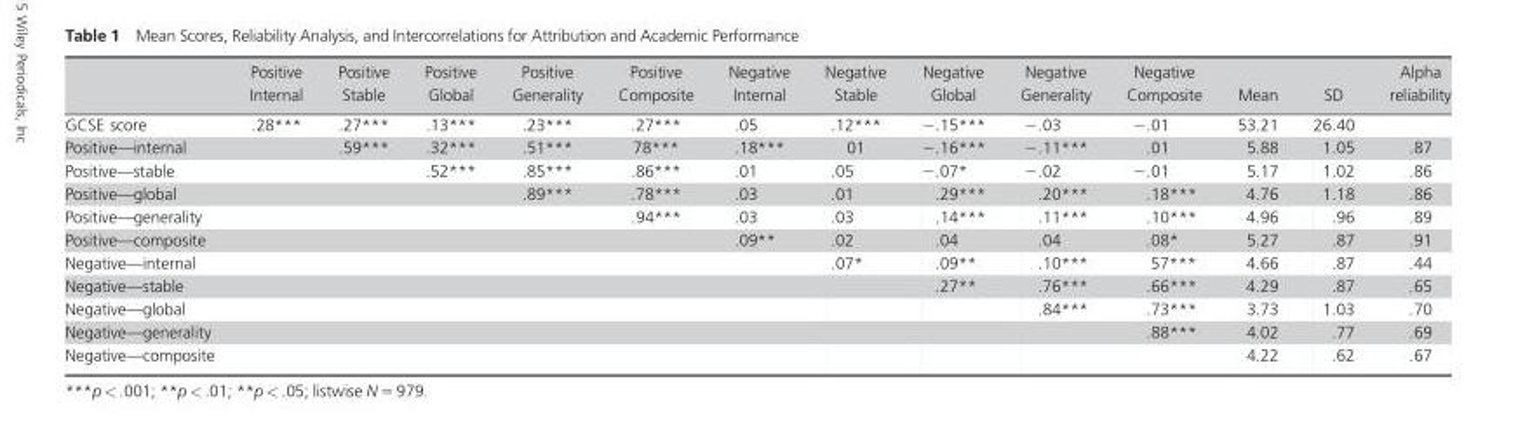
<table><thead><tr><td></td><td>Positive Internal</td><td>Positive Stable</td><td>Positive Global</td><td>Positive Generality</td><td>Positive Composite</td><td>Negative Internal</td><td>Negative Stable</td><td>Negative Global</td><td>Negative Generality</td><td>Negative Composite</td><td>Mean</td><td>SD</td><td>Alpha reliability</td></tr></thead><tbody><tr><td>GCSE score</td><td>.28***</td><td>.27***</td><td>.13***</td><td>.23***</td><td>.27***</td><td>.05</td><td>.12***</td><td>−.15***</td><td>−.03</td><td>−.01</td><td>53.21</td><td>26.40</td><td></td></tr><tr><td>Positive—internal</td><td></td><td>.59***</td><td>.32***</td><td>.51***</td><td>78***</td><td>.18***</td><td>01</td><td>−.16***</td><td>−.11***</td><td>.01</td><td>5.88</td><td>1.05</td><td>.87</td></tr><tr><td>Positive—stable</td><td></td><td></td><td>.52***</td><td>.85***</td><td>.86***</td><td>.01</td><td>.05</td><td>−.07*</td><td>−.02</td><td>−.01</td><td>5.17</td><td>1.02</td><td>.86</td></tr><tr><td>Positive—global</td><td></td><td></td><td></td><td>.89***</td><td>.78***</td><td>.03</td><td>.01</td><td>.29***</td><td>.20***</td><td>.18***</td><td>4.76</td><td>1.18</td><td>.86</td></tr><tr><td>Positive—generality</td><td></td><td></td><td></td><td></td><td>.94***</td><td>.03</td><td>.03</td><td>.14***</td><td>.11***</td><td>.10***</td><td>4.96</td><td>.96</td><td>.89</td></tr><tr><td>Positive—composite</td><td></td><td></td><td></td><td></td><td></td><td>.09**</td><td>.02</td><td>.04</td><td>.04</td><td>.08*</td><td>5.27</td><td>.87</td><td>.91</td></tr><tr><td>Negative—internal</td><td></td><td></td><td></td><td></td><td></td><td></td><td>.07*</td><td>.09**</td><td>.10***</td><td>57***</td><td>4.66</td><td>.87</td><td>.44</td></tr><tr><td>Negative—stable</td><td></td><td></td><td></td><td></td><td></td><td></td><td></td><td>.27**</td><td>.76***</td><td>.66***</td><td>4.29</td><td>.87</td><td>.65</td></tr><tr><td>Negative—global</td><td></td><td></td><td></td><td></td><td></td><td></td><td></td><td></td><td>.84***</td><td>.73***</td><td>3.73</td><td>1.03</td><td>.70</td></tr><tr><td>Negative—generality</td><td></td><td></td><td></td><td></td><td></td><td></td><td></td><td></td><td></td><td>.88***</td><td>4.02</td><td>.77</td><td>.69</td></tr><tr><td>Negative—composite</td><td></td><td></td><td></td><td></td><td></td><td></td><td></td><td></td><td></td><td></td><td>4.22</td><td>.62</td><td>.67</td></tr></tbody></table>